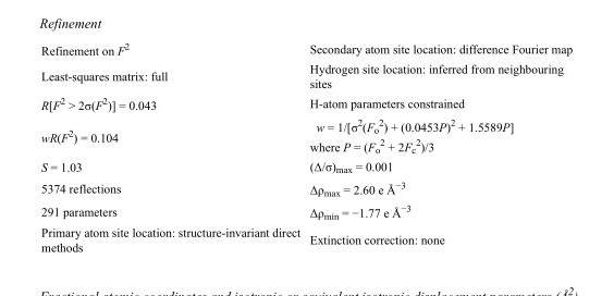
<table><tbody><tr><td>Refinement on F<sup>2</sup></td><td>Secondary atom site location: difference Fourier map</td></tr><tr><td>Least-squares matrix: full</td><td>Hydrogen site location: inferred from neighbouring sites</td></tr><tr><td>R[F<sup>2</sup> &gt; 2σ(F<sup>2</sup>)] = 0.043</td><td>H-atom parameters constrained</td></tr><tr><td>wR(F<sup>2</sup>) = 0.104</td><td>w = 1/[σ<sup>2</sup>(F<sub>o</sub> <sup>2</sup>) + (0.0453P)<sup>2</sup> + 1.5589P] where P = (F<sub>o</sub> <sup>2</sup> + 2F<sub>c</sub> <sup>2</sup>)/3</td></tr><tr><td>S = 1.03</td><td>(Δ/σ)<sub>max</sub> = 0.001</td></tr><tr><td>5374 reflections</td><td>Δρ<sub>max</sub> = 2.60 e Å<sup>−3</sup></td></tr><tr><td>291 parameters</td><td>Δρ<sub>min</sub> = −1.77 e Å<sup>−3</sup></td></tr><tr><td>Primary atom site location: structure-invariant direct methods</td><td>Extinction correction: none</td></tr></tbody></table>